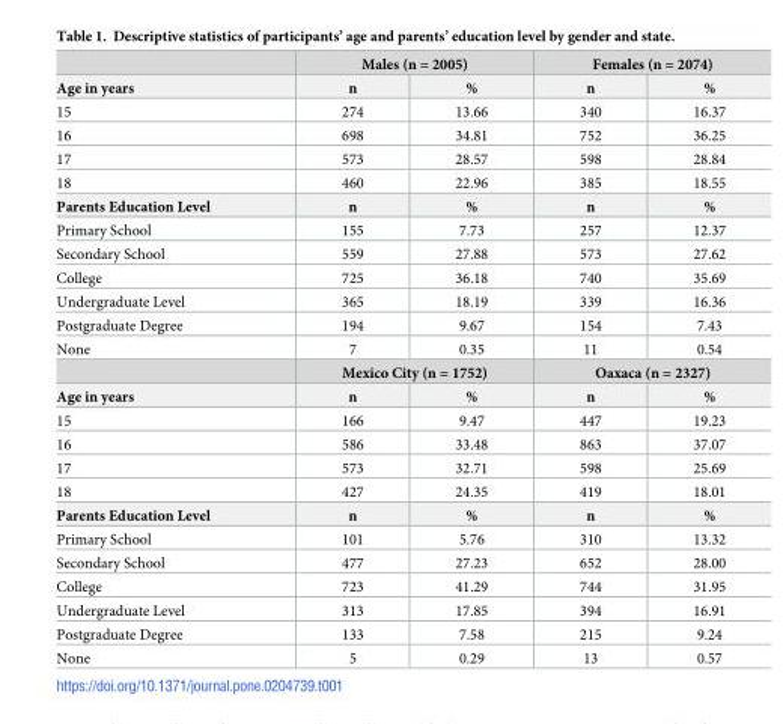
<table><thead><tr><td rowspan="2">Age in years</td><td colspan="2">Males (n = 2005)</td><td colspan="2">Females (n = 2074)</td></tr><tr><td>n</td><td>%</td><td>n</td><td>%</td></tr></thead><tbody><tr><td>15</td><td>274</td><td>13.66</td><td>340</td><td>16.37</td></tr><tr><td>16</td><td>698</td><td>34.81</td><td>752</td><td>36.25</td></tr><tr><td>17</td><td>573</td><td>28.57</td><td>598</td><td>28.84</td></tr><tr><td>18</td><td>460</td><td>22.96</td><td>385</td><td>18.55</td></tr><tr><td>Parents Education Level</td><td>n</td><td>%</td><td>n</td><td>%</td></tr><tr><td>Primary School</td><td>155</td><td>7.73</td><td>257</td><td>12.37</td></tr><tr><td>Secondary School</td><td>559</td><td>27.88</td><td>573</td><td>27.62</td></tr><tr><td>College</td><td>725</td><td>36.18</td><td>740</td><td>35.69</td></tr><tr><td>Undergraduate Level</td><td>365</td><td>18.19</td><td>339</td><td>16.36</td></tr><tr><td>Postgraduate Degree</td><td>194</td><td>9.67</td><td>154</td><td>7.43</td></tr><tr><td rowspan="2">None</td><td>7</td><td>0.35</td><td>11</td><td>0.54</td></tr><tr><td colspan="2">Mexico City (n = 1752)</td><td colspan="2">Oaxaca (n = 2327)</td></tr><tr><td>Age in years</td><td>n</td><td>%</td><td>n</td><td>%</td></tr><tr><td>15</td><td>166</td><td>9.47</td><td>447</td><td>19.23</td></tr><tr><td>16</td><td>586</td><td>33.48</td><td>863</td><td>37.07</td></tr><tr><td>17</td><td>573</td><td>32.71</td><td>598</td><td>25.69</td></tr><tr><td>18</td><td>427</td><td>24.35</td><td>419</td><td>18.01</td></tr><tr><td>Parents Education Level</td><td>n</td><td>%</td><td>n</td><td>%</td></tr><tr><td>Primary School</td><td>101</td><td>5.76</td><td>310</td><td>13.32</td></tr><tr><td>Secondary School</td><td>477</td><td>27.23</td><td>652</td><td>28.00</td></tr><tr><td>College</td><td>723</td><td>41.29</td><td>744</td><td>31.95</td></tr><tr><td>Undergraduate Level</td><td>313</td><td>17.85</td><td>394</td><td>16.91</td></tr><tr><td>Postgraduate Degree</td><td>133</td><td>7.58</td><td>215</td><td>9.24</td></tr><tr><td>None</td><td>5</td><td>0.29</td><td>13</td><td>0.57</td></tr></tbody></table>